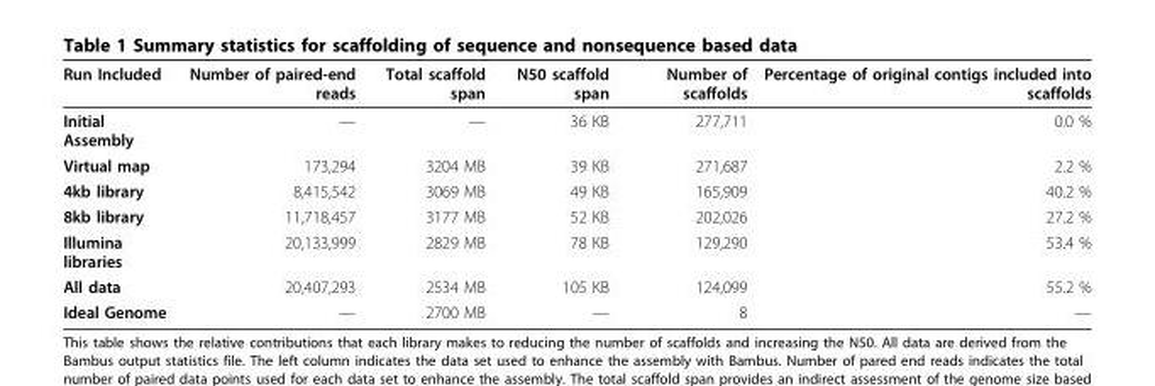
<table><thead><tr><td>Run Included</td><td>Number of paired-end reads</td><td>Total scaffold span</td><td>N50 scaffold span</td><td>Number of scaffolds</td><td>Percentage of original contigs included into scaffolds</td></tr></thead><tbody><tr><td>Initial Assembly</td><td>—</td><td>—</td><td>36 KB</td><td>277,711</td><td>0.0 %</td></tr><tr><td>Virtual map</td><td>173,294</td><td>3204 MB</td><td>39 KB</td><td>271,687</td><td>2.2 %</td></tr><tr><td>4kb library</td><td>8,415,542</td><td>3069 MB</td><td>49 KB</td><td>165,909</td><td>40.2 %</td></tr><tr><td>8kb library</td><td>11,718,457</td><td>3177 MB</td><td>52 KB</td><td>202,026</td><td>27.2 %</td></tr><tr><td>Illumina libraries</td><td>20,133,999</td><td>2829 MB</td><td>78 KB</td><td>129,290</td><td>53.4 %</td></tr><tr><td>All data</td><td>20,407,293</td><td>2534 MB</td><td>105 KB</td><td>124,099</td><td>55.2 %</td></tr><tr><td>Ideal Genome</td><td>—</td><td>2700 MB</td><td>—</td><td>8</td><td>—</td></tr></tbody></table>